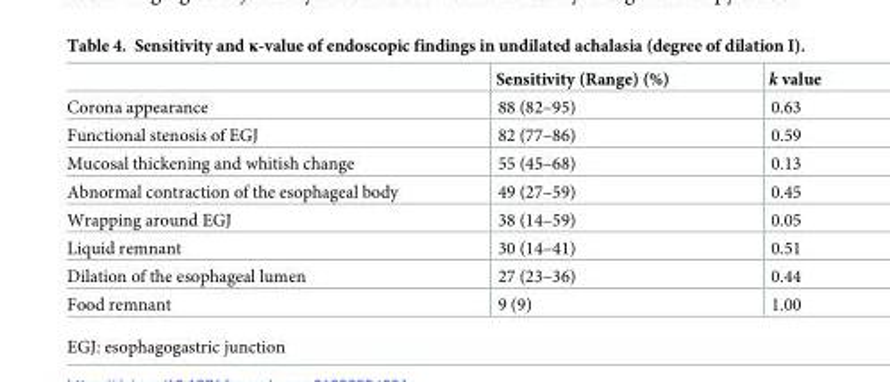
<table><thead><tr><td></td><td>Sensitivity (Range) (%)</td><td>k value</td></tr></thead><tbody><tr><td>Corona appearance</td><td>88 (82–95)</td><td>0.63</td></tr><tr><td>Functional stenosis of EGJ</td><td>82 (77–86)</td><td>0.59</td></tr><tr><td>Mucosal thickening and whitish change</td><td>55 (45–68)</td><td>0.13</td></tr><tr><td>Abnormal contraction of the esophageal body</td><td>49 (27–59)</td><td>0.45</td></tr><tr><td>Wrapping around EGJ</td><td>38 (14–59)</td><td>0.05</td></tr><tr><td>Liquid remnant</td><td>30 (14–41)</td><td>0.51</td></tr><tr><td>Dilation of the esophageal lumen</td><td>27 (23–36)</td><td>0.44</td></tr><tr><td>Food remnant</td><td>9 (9)</td><td>1.00</td></tr></tbody></table>